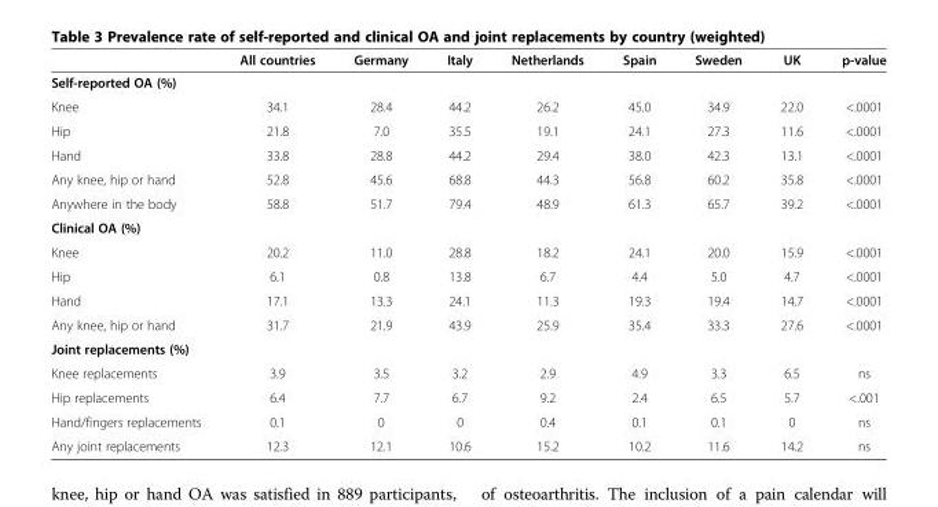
<table><thead><tr><td></td><td>All countries</td><td>Germany</td><td>Italy</td><td>Netherlands</td><td>Spain</td><td>Sweden</td><td>UK</td><td>p-value</td></tr></thead><tbody><tr><td colspan="9">Self-reported OA (%)</td></tr><tr><td>Knee</td><td>34.1</td><td>28.4</td><td>44.2</td><td>26.2</td><td>45.0</td><td>34.9</td><td>22.0</td><td>&lt;.0001</td></tr><tr><td>Hip</td><td>21.8</td><td>7.0</td><td>35.5</td><td>19.1</td><td>24.1</td><td>27.3</td><td>11.6</td><td>&lt;.0001</td></tr><tr><td>Hand</td><td>33.8</td><td>28.8</td><td>44.2</td><td>29.4</td><td>38.0</td><td>42.3</td><td>13.1</td><td>&lt;.0001</td></tr><tr><td>Any knee, hip or hand</td><td>52.8</td><td>45.6</td><td>68.8</td><td>44.3</td><td>56.8</td><td>60.2</td><td>35.8</td><td>&lt;.0001</td></tr><tr><td>Anywhere in the body</td><td>58.8</td><td>51.7</td><td>79.4</td><td>48.9</td><td>61.3</td><td>65.7</td><td>39.2</td><td>&lt;.0001</td></tr><tr><td colspan="9">Clinical OA (%)</td></tr><tr><td>Knee</td><td>20.2</td><td>11.0</td><td>28.8</td><td>18.2</td><td>24.1</td><td>20.0</td><td>15.9</td><td>&lt;.0001</td></tr><tr><td>Hip</td><td>6.1</td><td>0.8</td><td>13.8</td><td>6.7</td><td>4.4</td><td>5.0</td><td>4.7</td><td>&lt;.0001</td></tr><tr><td>Hand</td><td>17.1</td><td>13.3</td><td>24.1</td><td>11.3</td><td>19.3</td><td>19.4</td><td>14.7</td><td>&lt;.0001</td></tr><tr><td>Any knee, hip or hand</td><td>31.7</td><td>21.9</td><td>43.9</td><td>25.9</td><td>35.4</td><td>33.3</td><td>27.6</td><td>&lt;.0001</td></tr><tr><td colspan="9">Joint replacements (%)</td></tr><tr><td>Knee replacements</td><td>3.9</td><td>3.5</td><td>3.2</td><td>2.9</td><td>4.9</td><td>3.3</td><td>6.5</td><td>ns</td></tr><tr><td>Hip replacements</td><td>6.4</td><td>7.7</td><td>6.7</td><td>9.2</td><td>2.4</td><td>6.5</td><td>5.7</td><td>&lt;.001</td></tr><tr><td>Hand/fingers replacements</td><td>0.1</td><td>0</td><td>0</td><td>0.4</td><td>0.1</td><td>0.1</td><td>0</td><td>ns</td></tr><tr><td>Any joint replacements</td><td>12.3</td><td>12.1</td><td>10.6</td><td>15.2</td><td>10.2</td><td>11.6</td><td>14.2</td><td>ns</td></tr></tbody></table>